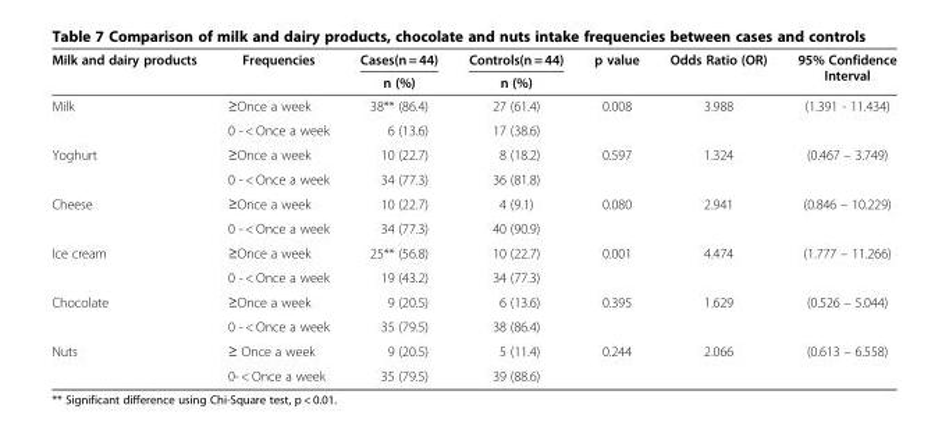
<table><thead><tr><td rowspan="2">Milk and dairy products</td><td rowspan="2">Frequencies</td><td rowspan="2">Cases(n = 44) n (%)</td><td rowspan="2">Controls(n = 44) n (%)</td><td rowspan="2">p value</td><td rowspan="2">Odds Ratio (OR)</td><td rowspan="2">95% Confidence Interval</td></tr><tr></tr></thead><tbody><tr><td rowspan="2">Milk</td><td>≥Once a week</td><td>38** (86.4)</td><td>27 (61.4)</td><td>0.008</td><td>3.988</td><td>(1.391 - 11.434)</td></tr><tr><td>0 - &lt; Once a week</td><td>6 (13.6)</td><td>17 (38.6)</td><td></td><td></td><td></td></tr><tr><td rowspan="2">Yoghurt</td><td>≥Once a week</td><td>10 (22.7)</td><td>8 (18.2)</td><td>0.597</td><td>1.324</td><td>(0.467 – 3.749)</td></tr><tr><td>0 - &lt; Once a week</td><td>34 (77.3)</td><td>36 (81.8)</td><td></td><td></td><td></td></tr><tr><td rowspan="2">Cheese</td><td>≥Once a week</td><td>10 (22.7)</td><td>4 (9.1)</td><td>0.080</td><td>2.941</td><td>(0.846 – 10.229)</td></tr><tr><td>0 - &lt; Once a week</td><td>34 (77.3)</td><td>40 (90.9)</td><td></td><td></td><td></td></tr><tr><td rowspan="2">Ice cream</td><td>≥Once a week</td><td>25** (56.8)</td><td>10 (22.7)</td><td>0.001</td><td>4.474</td><td>(1.777 – 11.266)</td></tr><tr><td>0 - &lt; Once a week</td><td>19 (43.2)</td><td>34 (77.3)</td><td></td><td></td><td></td></tr><tr><td rowspan="2">Chocolate</td><td>≥Once a week</td><td>9 (20.5)</td><td>6 (13.6)</td><td>0.395</td><td>1.629</td><td>(0.526 – 5.044)</td></tr><tr><td>0 - &lt; Once a week</td><td>35 (79.5)</td><td>38 (86.4)</td><td></td><td></td><td></td></tr><tr><td rowspan="2">Nuts</td><td>≥ Once a week</td><td>9 (20.5)</td><td>5 (11.4)</td><td>0.244</td><td>2.066</td><td>(0.613 – 6.558)</td></tr><tr><td>0- &lt; Once a week</td><td>35 (79.5)</td><td>39 (88.6)</td><td></td><td></td><td></td></tr></tbody></table>